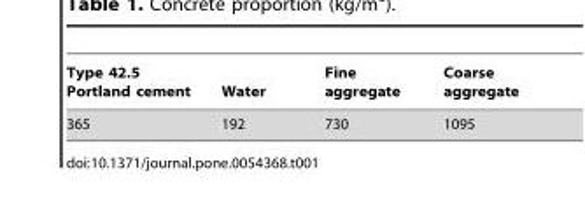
<table><thead><tr><td>Type 42.5 Portland cement</td><td>Water</td><td>Fine aggregate</td><td>Coarse aggregate</td></tr></thead><tbody><tr><td>365</td><td>192</td><td>730</td><td>1095</td></tr></tbody></table>